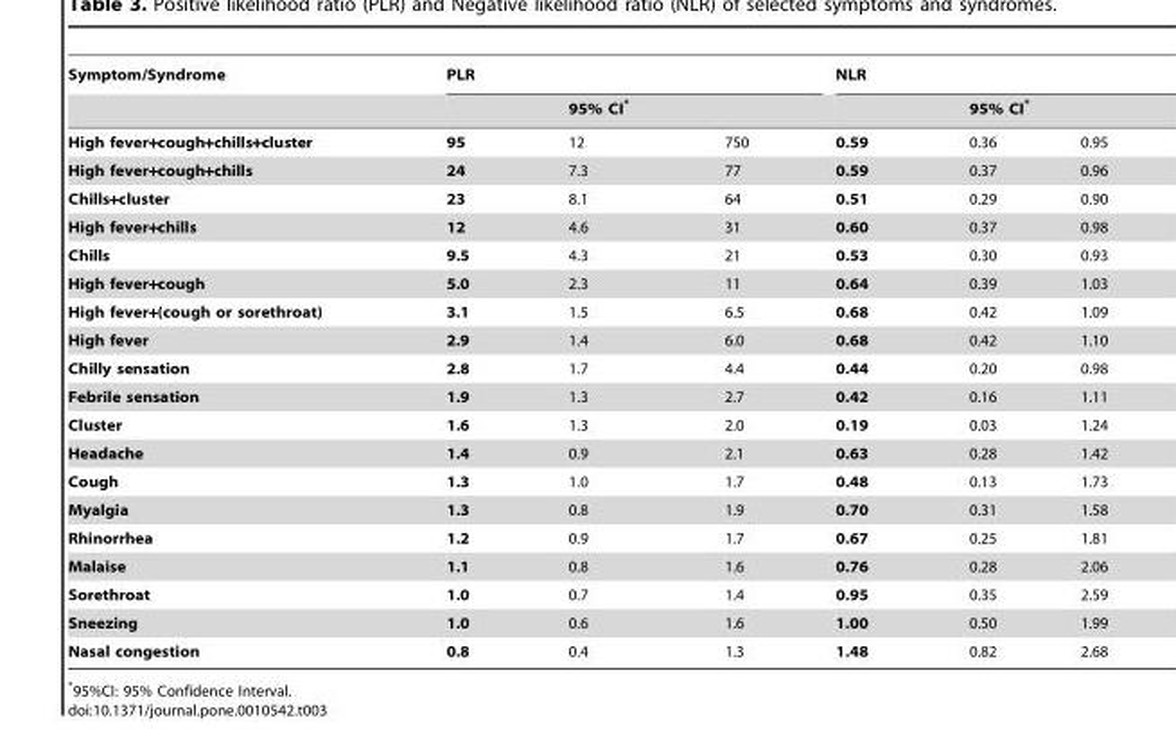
<table><thead><tr><td rowspan="3">Symptom/Syndrome High fever+cough+chills+cluster</td><td colspan="3">PLR</td><td colspan="3">NLR</td></tr><tr><td rowspan="2">95</td><td colspan="2">95% CI*</td><td rowspan="2">0.59</td><td colspan="2">95% CI*</td></tr><tr><td>12</td><td>750</td><td>0.36</td><td>0.95</td></tr></thead><tbody><tr><td>High fever+cough+chills</td><td>24</td><td>7.3</td><td>77</td><td>0.59</td><td>0.37</td><td>0.96</td></tr><tr><td>Chills+cluster</td><td>23</td><td>8.1</td><td>64</td><td>0.51</td><td>0.29</td><td>0.90</td></tr><tr><td>High fever+chills</td><td>12</td><td>4.6</td><td>31</td><td>0.60</td><td>0.37</td><td>0.98</td></tr><tr><td>Chills</td><td>9.5</td><td>4.3</td><td>21</td><td>0.53</td><td>0.30</td><td>0.93</td></tr><tr><td>High fever+cough</td><td>5.0</td><td>2.3</td><td>11</td><td>0.64</td><td>0.39</td><td>1.03</td></tr><tr><td>High fever+(cough or sorethroat)</td><td>3.1</td><td>1.5</td><td>6.5</td><td>0.68</td><td>0.42</td><td>1.09</td></tr><tr><td>High fever</td><td>2.9</td><td>1.4</td><td>6.0</td><td>0.68</td><td>0.42</td><td>1.10</td></tr><tr><td>Chilly sensation</td><td>2.8</td><td>1.7</td><td>4.4</td><td>0.44</td><td>0.20</td><td>0.98</td></tr><tr><td>Febrile sensation</td><td>1.9</td><td>1.3</td><td>2.7</td><td>0.42</td><td>0.16</td><td>1.11</td></tr><tr><td>Cluster</td><td>1.6</td><td>1.3</td><td>2.0</td><td>0.19</td><td>0.03</td><td>1.24</td></tr><tr><td>Headache</td><td>1.4</td><td>0.9</td><td>2.1</td><td>0.63</td><td>0.28</td><td>1.42</td></tr><tr><td>Cough</td><td>1.3</td><td>1.0</td><td>1.7</td><td>0.48</td><td>0.13</td><td>1.73</td></tr><tr><td>Myalgia</td><td>1.3</td><td>0.8</td><td>1.9</td><td>0.70</td><td>0.31</td><td>1.58</td></tr><tr><td>Rhinorrhea</td><td>1.2</td><td>0.9</td><td>1.7</td><td>0.67</td><td>0.25</td><td>1.81</td></tr><tr><td>Malaise</td><td>1.1</td><td>0.8</td><td>1.6</td><td>0.76</td><td>0.28</td><td>2.06</td></tr><tr><td>Sorethroat</td><td>1.0</td><td>0.7</td><td>1.4</td><td>0.95</td><td>0.35</td><td>2.59</td></tr><tr><td>Sneezing</td><td>1.0</td><td>0.6</td><td>1.6</td><td>1.00</td><td>0.50</td><td>1.99</td></tr><tr><td>Nasal congestion</td><td>0.8</td><td>0.4</td><td>1.3</td><td>1.48</td><td>0.82</td><td>2.68</td></tr></tbody></table>